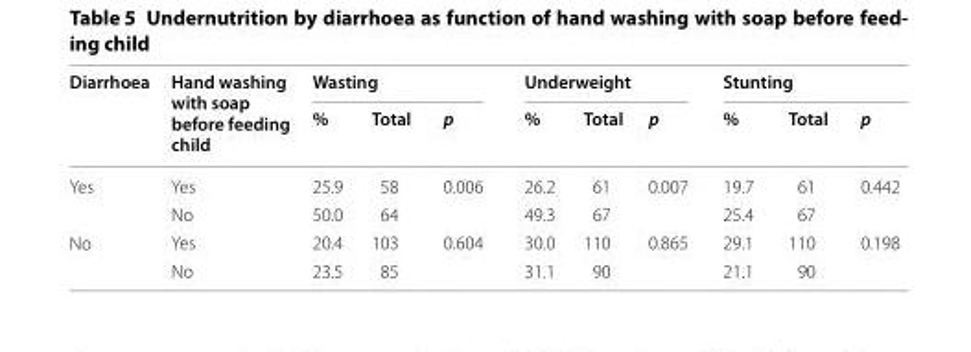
<table><thead><tr><td rowspan="2">Diarrhoea</td><td rowspan="2">Hand washing with soap before feeding child</td><td colspan="3">Wasting</td><td colspan="3">Underweight</td><td colspan="3">Stunting</td></tr><tr><td>%</td><td>Total</td><td>p</td><td>%</td><td>Total</td><td>p</td><td>%</td><td>Total</td><td>p</td></tr></thead><tbody><tr><td rowspan="2">Yes</td><td>Yes</td><td>25.9</td><td>58</td><td>0.006</td><td>26.2</td><td>61</td><td>0.007</td><td>19.7</td><td>61</td><td>0.442</td></tr><tr><td>No</td><td>50.0</td><td>64</td><td></td><td>49.3</td><td>67</td><td></td><td>25.4</td><td>67</td><td></td></tr><tr><td rowspan="2">No</td><td>Yes</td><td>20.4</td><td>103</td><td>0.604</td><td>30.0</td><td>110</td><td>0.865</td><td>29.1</td><td>110</td><td>0.198</td></tr><tr><td>No</td><td>23.5</td><td>85</td><td></td><td>31.1</td><td>90</td><td></td><td>21.1</td><td>90</td><td></td></tr></tbody></table>